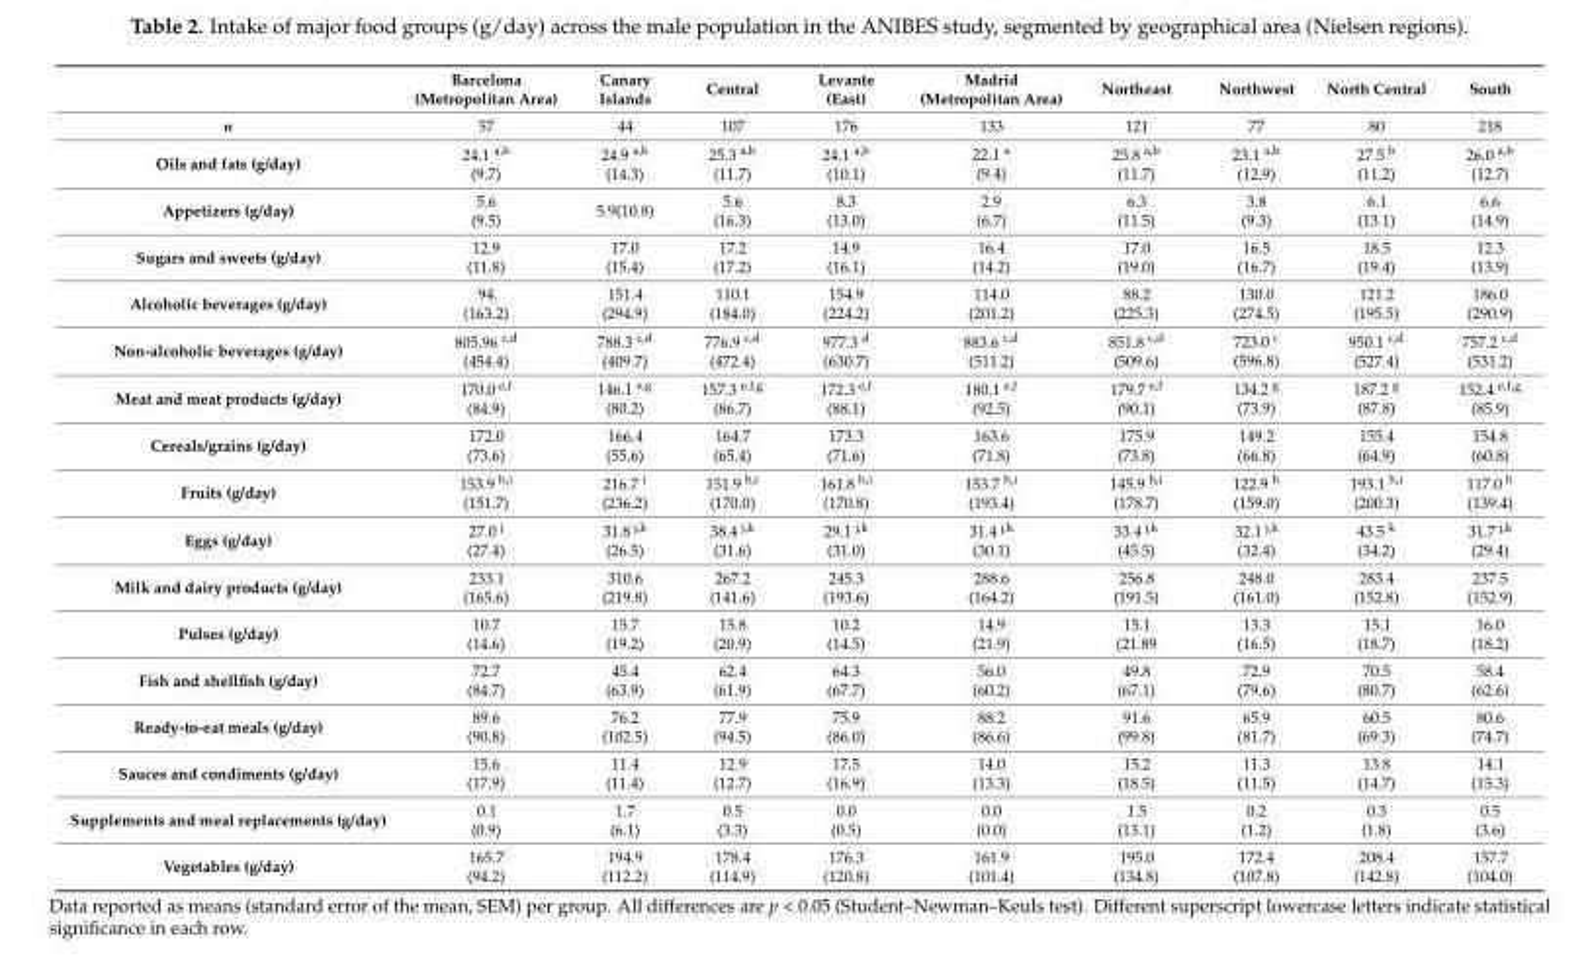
<table><thead><tr><td></td><td>Barcelona (Metropolitan Area)</td><td>Canary Islands</td><td>Central</td><td>Levante (East)</td><td>Madrid (Metropolitan Area)</td><td>Northeast</td><td>Northwest</td><td>North Central</td><td>South</td></tr></thead><tbody><tr><td>n</td><td>57</td><td>44</td><td>107</td><td>176</td><td>133</td><td>121</td><td>77</td><td>80</td><td>218</td></tr><tr><td>Oils and fats (g/day)</td><td>24.1 <sup>a,b</sup> (9.7)</td><td>24.9 <sup>a,b</sup> (14.3)</td><td>25.3 <sup>a,b</sup> (11.7)</td><td>24.1 <sup>a,b</sup> (10.1)</td><td>22.1 <sup>a</sup> (9.4)</td><td>25.8 <sup>a,b</sup> (11.7)</td><td>23.1 <sup>a,b</sup> (12.9)</td><td>27.5 <sup>b</sup> (11.2)</td><td>26.0 <sup>a,b</sup> (12.7)</td></tr><tr><td>Appetizers (g/day)</td><td>5.6 (9.5)</td><td>5.9(10.8)</td><td>5.6 (16.3)</td><td>8.3 (13.0)</td><td>2.9 (6.7)</td><td>6.3 (11.5)</td><td>3.8 (9.3)</td><td>6.1 (13.1)</td><td>6.6 (14.9)</td></tr><tr><td>Sugars and sweets (g/day)</td><td>12.9 (11.8)</td><td>17.0 (15.4)</td><td>17.2 (17.2)</td><td>14.9 (16.1)</td><td>16.4 (14.2)</td><td>17.0 (19.0)</td><td>16.5 (16.7)</td><td>18.5 (19.4)</td><td>12.3 (13.9)</td></tr><tr><td>Alcoholic beverages (g/day)</td><td>94. (163.2)</td><td>151.4 (294.9)</td><td>110.1 (184.0)</td><td>154.9 (224.2)</td><td>114.0 (201.2)</td><td>88.2 (225.3)</td><td>130.0 (274.5)</td><td>121.2 (195.5)</td><td>186.0 (290.9)</td></tr><tr><td>Non-alcoholic beverages (g/day)</td><td>805.96 <sup>c,d</sup> (454.4)</td><td>788.3 <sup>c,d</sup> (409.7)</td><td>776.9 <sup>c,d</sup> (472.4)</td><td>977.3 <sup>d</sup> (630.7)</td><td>883.6 <sup>c,d</sup> (511.2)</td><td>851.8 <sup>c,d</sup> (509.6)</td><td>723.0 <sup>c</sup> (596.8)</td><td>950.1 <sup>c,d</sup> (527.4)</td><td>757.2 <sup>c,d</sup> (531.2)</td></tr><tr><td>Meat and meat products (g/day)</td><td>170.0 <sup>e,f</sup> (84.9)</td><td>146.1 <sup>e,g</sup> (80.2)</td><td>157.3 <sup>e,f,g</sup> (86.7)</td><td>172.3 <sup>e,f</sup> (88.1)</td><td>180.1 <sup>e,f</sup> (92.5)</td><td>179.7 <sup>e,f</sup> (90.1)</td><td>134.2 <sup>g</sup> (73.9)</td><td>187.2 <sup>g</sup> (87.8)</td><td>152.4 <sup>e,f,g</sup> (85.9)</td></tr><tr><td>Cereals/grains (g/day)</td><td>172.0 (73.6)</td><td>166.4 (55.6)</td><td>164.7 (65.4)</td><td>173.3 (71.6)</td><td>163.6 (71.8)</td><td>175.9 (73.8)</td><td>149.2 (66.8)</td><td>155.4 (64.9)</td><td>154.8 (60.8)</td></tr><tr><td>Fruits (g/day)</td><td>153.9 <sup>h,i</sup> (151.7)</td><td>216.7 <sup>i</sup> (236.2)</td><td>151.9 <sup>h,i</sup> (170.0)</td><td>161.8 <sup>h,i</sup> (170.8)</td><td>153.7 <sup>h,i</sup> (193.4)</td><td>145.9 <sup>h,i</sup> (178.7)</td><td>122.9 <sup>h</sup> (159.0)</td><td>193.1 <sup>h,i</sup> (200.3)</td><td>117.0 <sup>h</sup> (139.4)</td></tr><tr><td>Eggs (g/day)</td><td>27.0 <sup>j</sup> (27.4)</td><td>31.8 <sup>j,k</sup> (26.5)</td><td>38.4 <sup>j,k</sup> (31.6)</td><td>29.1 <sup>j,k</sup> (31.0)</td><td>31.4 <sup>j,k</sup> (30.1)</td><td>33.4 <sup>j,k</sup> (45.5)</td><td>32.1 <sup>j,k</sup> (32.4)</td><td>43.5 <sup>k</sup> (34.2)</td><td>31.7 <sup>j,k</sup> (29.4)</td></tr><tr><td>Milk and dairy products (g/day)</td><td>233.1 (165.6)</td><td>310.6 (219.8)</td><td>267.2 (141.6)</td><td>245.3 (193.6)</td><td>288.6 (164.2)</td><td>256.8 (191.5)</td><td>248.0 (161.0)</td><td>283.4 (152.8)</td><td>237.5 (152.9)</td></tr><tr><td>Pulses (g/day)</td><td>10.7 (14.6)</td><td>15.7 (19.2)</td><td>15.8 (20.9)</td><td>10.2 (14.5)</td><td>14.9 (21.9)</td><td>15.1 (21.89</td><td>13.3 (16.5)</td><td>15.1 (18.7)</td><td>16.0 (18.2)</td></tr><tr><td>Fish and shellfish (g/day)</td><td>72.7 (84.7)</td><td>45.4 (63.9)</td><td>62.4 (61.9)</td><td>64.3 (67.7)</td><td>56.0 (60.2)</td><td>49.8 (67.1)</td><td>72.9 (79.6)</td><td>70.5 (80.7)</td><td>58.4 (62.6)</td></tr><tr><td>Ready-to-eat meals (g/day)</td><td>89.6 (90.8)</td><td>76.2 (102.5)</td><td>77.9 (94.5)</td><td>75.9 (86.0)</td><td>88.2 (86.6)</td><td>91.6 (99.8)</td><td>65.9 (81.7)</td><td>60.5 (69.3)</td><td>80.6 (74.7)</td></tr><tr><td>Sauces and condiments (g/day)</td><td>15.6 (17.9)</td><td>11.4 (11.4)</td><td>12.9 (12.7)</td><td>17.5 (16.9)</td><td>14.0 (13.3)</td><td>15.2 (18.5)</td><td>11.3 (11.5)</td><td>13.8 (14.7)</td><td>14.1 (15.3)</td></tr><tr><td>Supplements and meal replacements (g/day)</td><td>0.1 (0.9)</td><td>1.7 (6.1)</td><td>0.5 (3.3)</td><td>0.0 (0.5)</td><td>0.0 (0.0)</td><td>1.5 (13.1)</td><td>0.2 (1.2)</td><td>0.3 (1.8)</td><td>0.5 (3.6)</td></tr><tr><td>Vegetables (g/day)</td><td>165.7 (94.2)</td><td>194.9 (112.2)</td><td>178.4 (114.9)</td><td>176.3 (120.8)</td><td>161.9 (101.4)</td><td>195.0 (134.8)</td><td>172.4 (107.8)</td><td>208.4 (142.8)</td><td>157.7 (104.0)</td></tr></tbody></table>